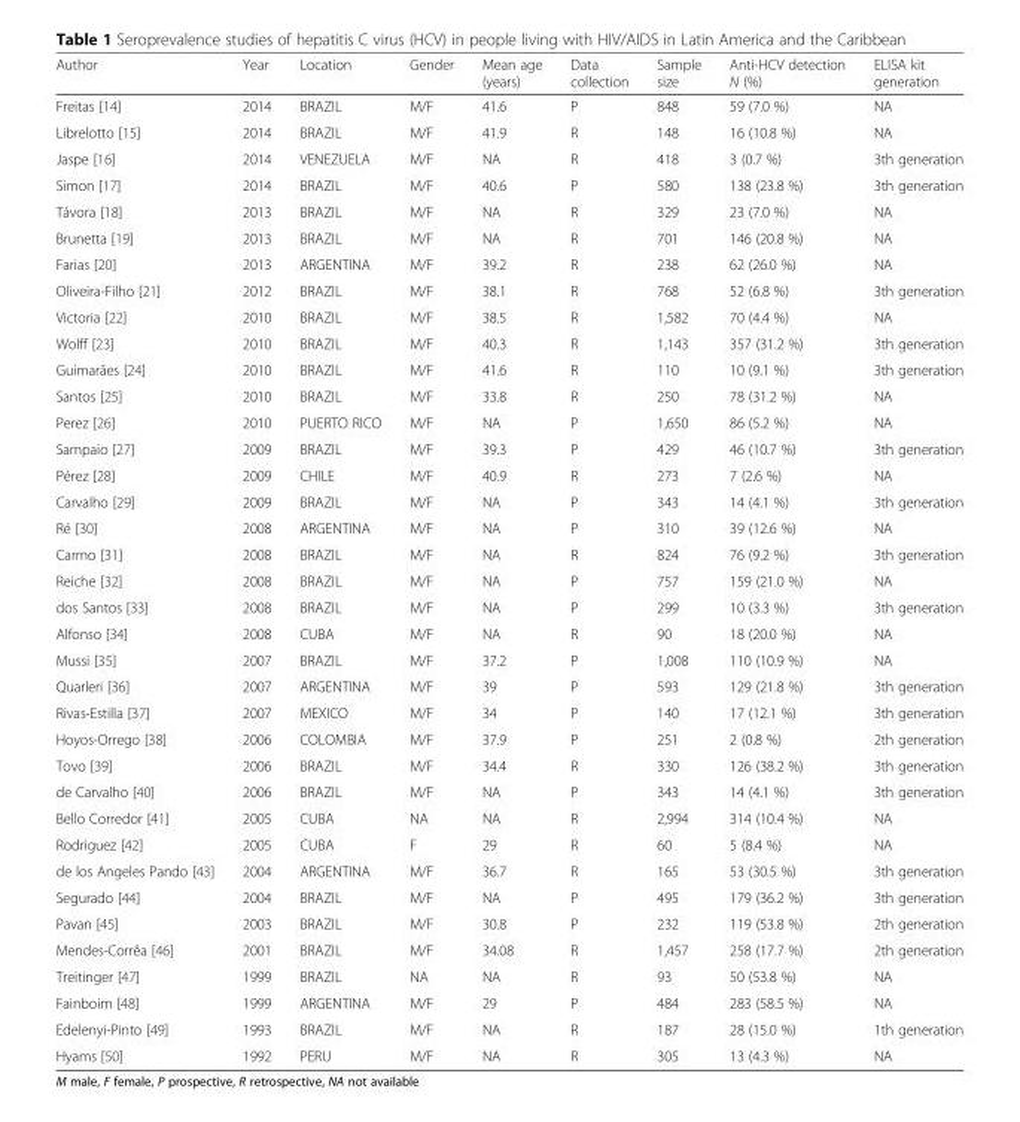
<table><thead><tr><td>Author</td><td>Year</td><td>Location</td><td>Gender</td><td>Mean age (years)</td><td>Data collection</td><td>Sample size</td><td>Anti-HCV detection N (%)</td><td>ELISA kit generation</td></tr></thead><tbody><tr><td>Freitas [14]</td><td>2014</td><td>BRAZIL</td><td>M/F</td><td>41.6</td><td>P</td><td>848</td><td>59 (7.0 %)</td><td>NA</td></tr><tr><td>Librelotto [15]</td><td>2014</td><td>BRAZIL</td><td>M/F</td><td>41.9</td><td>R</td><td>148</td><td>16 (10.8 %)</td><td>NA</td></tr><tr><td>Jaspe [16]</td><td>2014</td><td>VENEZUELA</td><td>M/F</td><td>NA</td><td>R</td><td>418</td><td>3 (0.7 %)</td><td>3th generation</td></tr><tr><td>Simon [17]</td><td>2014</td><td>BRAZIL</td><td>M/F</td><td>40.6</td><td>P</td><td>580</td><td>138 (23.8 %)</td><td>3th generation</td></tr><tr><td>Távora [18]</td><td>2013</td><td>BRAZIL</td><td>M/F</td><td>NA</td><td>R</td><td>329</td><td>23 (7.0 %)</td><td>NA</td></tr><tr><td>Brunetta [19]</td><td>2013</td><td>BRAZIL</td><td>M/F</td><td>NA</td><td>R</td><td>701</td><td>146 (20.8 %)</td><td>NA</td></tr><tr><td>Farias [20]</td><td>2013</td><td>ARGENTINA</td><td>M/F</td><td>39.2</td><td>R</td><td>238</td><td>62 (26.0 %)</td><td>NA</td></tr><tr><td>Oliveira-Filho [21]</td><td>2012</td><td>BRAZIL</td><td>M/F</td><td>38.1</td><td>R</td><td>768</td><td>52 (6.8 %)</td><td>3th generation</td></tr><tr><td>Victoria [22]</td><td>2010</td><td>BRAZIL</td><td>M/F</td><td>38.5</td><td>R</td><td>1,582</td><td>70 (4.4 %)</td><td>NA</td></tr><tr><td>Wolff [23]</td><td>2010</td><td>BRAZIL</td><td>M/F</td><td>40.3</td><td>R</td><td>1,143</td><td>357 (31.2 %)</td><td>3th generation</td></tr><tr><td>Guimarães [24]</td><td>2010</td><td>BRAZIL</td><td>M/F</td><td>41.6</td><td>R</td><td>110</td><td>10 (9.1 %)</td><td>3th generation</td></tr><tr><td>Santos [25]</td><td>2010</td><td>BRAZIL</td><td>M/F</td><td>33.8</td><td>R</td><td>250</td><td>78 (31.2 %)</td><td>NA</td></tr><tr><td>Perez [26]</td><td>2010</td><td>PUERTO RICO</td><td>M/F</td><td>NA</td><td>P</td><td>1,650</td><td>86 (5.2 %)</td><td>NA</td></tr><tr><td>Sampaio [27]</td><td>2009</td><td>BRAZIL</td><td>M/F</td><td>39.3</td><td>P</td><td>429</td><td>46 (10.7 %)</td><td>3th generation</td></tr><tr><td>Pérez [28]</td><td>2009</td><td>CHILE</td><td>M/F</td><td>40.9</td><td>R</td><td>273</td><td>7 (2.6 %)</td><td>NA</td></tr><tr><td>Carvalho [29]</td><td>2009</td><td>BRAZIL</td><td>M/F</td><td>NA</td><td>P</td><td>343</td><td>14 (4.1 %)</td><td>3th generation</td></tr><tr><td>Ré [30]</td><td>2008</td><td>ARGENTINA</td><td>M/F</td><td>NA</td><td>P</td><td>310</td><td>39 (12.6 %)</td><td>NA</td></tr><tr><td>Carmo [31]</td><td>2008</td><td>BRAZIL</td><td>M/F</td><td>NA</td><td>R</td><td>824</td><td>76 (9.2 %)</td><td>3th generation</td></tr><tr><td>Reiche [32]</td><td>2008</td><td>BRAZIL</td><td>M/F</td><td>NA</td><td>P</td><td>757</td><td>159 (21.0 %)</td><td>NA</td></tr><tr><td>dos Santos [33]</td><td>2008</td><td>BRAZIL</td><td>M/F</td><td>NA</td><td>P</td><td>299</td><td>10 (3.3 %)</td><td>3th generation</td></tr><tr><td>Alfonso [34]</td><td>2008</td><td>CUBA</td><td>M/F</td><td>NA</td><td>R</td><td>90</td><td>18 (20.0 %)</td><td>NA</td></tr><tr><td>Mussi [35]</td><td>2007</td><td>BRAZIL</td><td>M/F</td><td>37.2</td><td>P</td><td>1,008</td><td>110 (10.9 %)</td><td>NA</td></tr><tr><td>Quarleri [36]</td><td>2007</td><td>ARGENTINA</td><td>M/F</td><td>39</td><td>P</td><td>593</td><td>129 (21.8 %)</td><td>3th generation</td></tr><tr><td>Rivas-Estilla [37]</td><td>2007</td><td>MEXICO</td><td>M/F</td><td>34</td><td>P</td><td>140</td><td>17 (12.1 %)</td><td>3th generation</td></tr><tr><td>Hoyos-Orrego [38]</td><td>2006</td><td>COLOMBIA</td><td>M/F</td><td>37.9</td><td>P</td><td>251</td><td>2 (0.8 %)</td><td>2th generation</td></tr><tr><td>Tovo [39]</td><td>2006</td><td>BRAZIL</td><td>M/F</td><td>34.4</td><td>R</td><td>330</td><td>126 (38.2 %)</td><td>3th generation</td></tr><tr><td>de Carvalho [40]</td><td>2006</td><td>BRAZIL</td><td>M/F</td><td>NA</td><td>P</td><td>343</td><td>14 (4.1 %)</td><td>3th generation</td></tr><tr><td>Bello Corredor [41]</td><td>2005</td><td>CUBA</td><td>NA</td><td>NA</td><td>R</td><td>2,994</td><td>314 (10.4 %)</td><td>NA</td></tr><tr><td>Rodriguez [42]</td><td>2005</td><td>CUBA</td><td>F</td><td>29</td><td>R</td><td>60</td><td>5 (8.4 %)</td><td>NA</td></tr><tr><td>de los Angeles Pando [43]</td><td>2004</td><td>ARGENTINA</td><td>M/F</td><td>36.7</td><td>R</td><td>165</td><td>53 (30.5 %)</td><td>3th generation</td></tr><tr><td>Segurado [44]</td><td>2004</td><td>BRAZIL</td><td>M/F</td><td>NA</td><td>P</td><td>495</td><td>179 (36.2 %)</td><td>3th generation</td></tr><tr><td>Pavan [45]</td><td>2003</td><td>BRAZIL</td><td>M/F</td><td>30.8</td><td>P</td><td>232</td><td>119 (53.8 %)</td><td>2th generation</td></tr><tr><td>Mendes-Corrêa [46]</td><td>2001</td><td>BRAZIL</td><td>M/F</td><td>34.08</td><td>R</td><td>1,457</td><td>258 (17.7 %)</td><td>2th generation</td></tr><tr><td>Treitinger [47]</td><td>1999</td><td>BRAZIL</td><td>NA</td><td>NA</td><td>R</td><td>93</td><td>50 (53.8 %)</td><td>NA</td></tr><tr><td>Fainboim [48]</td><td>1999</td><td>ARGENTINA</td><td>M/F</td><td>29</td><td>P</td><td>484</td><td>283 (58.5 %)</td><td>NA</td></tr><tr><td>Edelenyi-Pinto [49]</td><td>1993</td><td>BRAZIL</td><td>M/F</td><td>NA</td><td>R</td><td>187</td><td>28 (15.0 %)</td><td>1th generation</td></tr><tr><td>Hyams [50]</td><td>1992</td><td>PERU</td><td>M/F</td><td>NA</td><td>R</td><td>305</td><td>13 (4.3 %)</td><td>NA</td></tr></tbody></table>